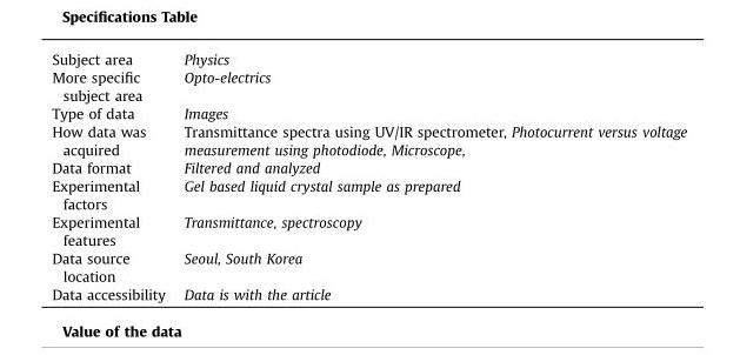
<table><tbody><tr><td>Subject area</td><td>Physics</td></tr><tr><td>More specific subject area</td><td>Opto-electrics</td></tr><tr><td>Type of data</td><td>Images</td></tr><tr><td>How data was acquired</td><td>Transmittance spectra using UV/IR spectrometer, Photocurrent versus voltage measurement using photodiode, Microscope,</td></tr><tr><td>Data format</td><td>Filtered and analyzed</td></tr><tr><td>Experimental factors</td><td>Gel based liquid crystal sample as prepared</td></tr><tr><td>Experimental features</td><td>Transmittance, spectroscopy</td></tr><tr><td>Data source location</td><td>Seoul, South Korea</td></tr><tr><td>Data accessibility</td><td>Data is with the article</td></tr></tbody></table>